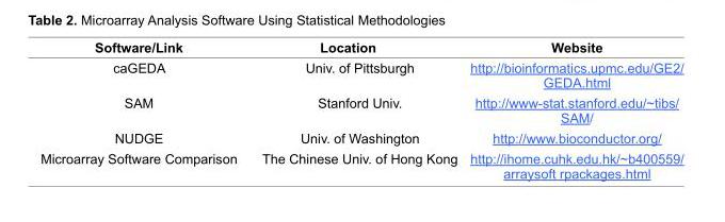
<table><thead><tr><td>Software/Link</td><td>Location</td><td>Website</td></tr></thead><tbody><tr><td>caGEDA</td><td>Univ. of Pittsburgh</td><td>http://bioinformatics.upmc.edu/GE2/ GEDA.html</td></tr><tr><td>SAM</td><td>Stanford Univ.</td><td>http://www-stat.stanford.edu/~tibs/ SAM/</td></tr><tr><td>NUDGE</td><td>Univ. of Washington</td><td>http://www.bioconductor.org/</td></tr><tr><td>Microarray Software Comparison</td><td>The Chinese Univ. of Hong Kong</td><td>http://ihome.cuhk.edu.hk/~b400559/ arraysoft rpackages.html</td></tr></tbody></table>